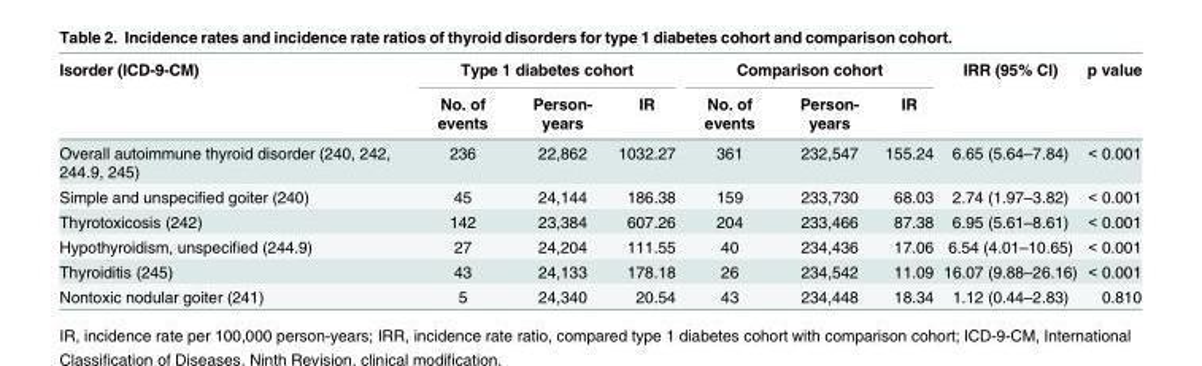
<table><thead><tr><td rowspan="2">Isorder (ICD-9-CM)</td><td colspan="3">Type 1 diabetes cohort</td><td colspan="3">Comparison cohort</td><td rowspan="2">IRR (95% CI)</td><td rowspan="2">p value</td></tr><tr><td>No. of events</td><td>Person- years</td><td>IR</td><td>No. of events</td><td>Person- years</td><td>IR</td></tr></thead><tbody><tr><td>Overall autoimmune thyroid disorder (240, 242, 244.9, 245)</td><td>236</td><td>22,862</td><td>1032.27</td><td>361</td><td>232,547</td><td>155.24</td><td>6.65 (5.64–7.84)</td><td>&lt; 0.001</td></tr><tr><td>Simple and unspecified goiter (240)</td><td>45</td><td>24,144</td><td>186.38</td><td>159</td><td>233,730</td><td>68.03</td><td>2.74 (1.97–3.82)</td><td>&lt; 0.001</td></tr><tr><td>Thyrotoxicosis (242)</td><td>142</td><td>23,384</td><td>607.26</td><td>204</td><td>233,466</td><td>87.38</td><td>6.95 (5.61–8.61)</td><td>&lt; 0.001</td></tr><tr><td>Hypothyroidism, unspecified (244.9)</td><td>27</td><td>24,204</td><td>111.55</td><td>40</td><td>234,436</td><td>17.06</td><td>6.54 (4.01–10.65)</td><td>&lt; 0.001</td></tr><tr><td>Thyroiditis (245)</td><td>43</td><td>24,133</td><td>178.18</td><td>26</td><td>234,542</td><td>11.09</td><td>16.07 (9.88–26.16)</td><td>&lt; 0.001</td></tr><tr><td>Nontoxic nodular goiter (241)</td><td>5</td><td>24,340</td><td>20.54</td><td>43</td><td>234,448</td><td>18.34</td><td>1.12 (0.44–2.83)</td><td>0.810</td></tr></tbody></table>